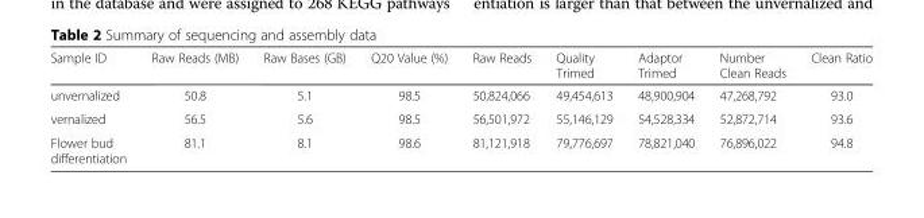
<table><thead><tr><td>Sample ID</td><td>Raw Reads (MB)</td><td>Raw Bases (GB)</td><td>Q20 Value (%)</td><td>Raw Reads</td><td>Quality Trimed</td><td>Adaptor Trimed</td><td>Number Clean Reads</td><td>Clean Ratio</td></tr></thead><tbody><tr><td>unvernalized</td><td>50.8</td><td>5.1</td><td>98.5</td><td>50,824,066</td><td>49,454,613</td><td>48,900,904</td><td>47,268,792</td><td>93.0</td></tr><tr><td>vernalized</td><td>56.5</td><td>5.6</td><td>98.5</td><td>56,501,972</td><td>55,146,129</td><td>54,528,334</td><td>52,872,714</td><td>93.6</td></tr><tr><td>Flower bud differentiation</td><td>81.1</td><td>8.1</td><td>98.6</td><td>81,121,918</td><td>79,776,697</td><td>78,821,040</td><td>76,896,022</td><td>94.8</td></tr></tbody></table>